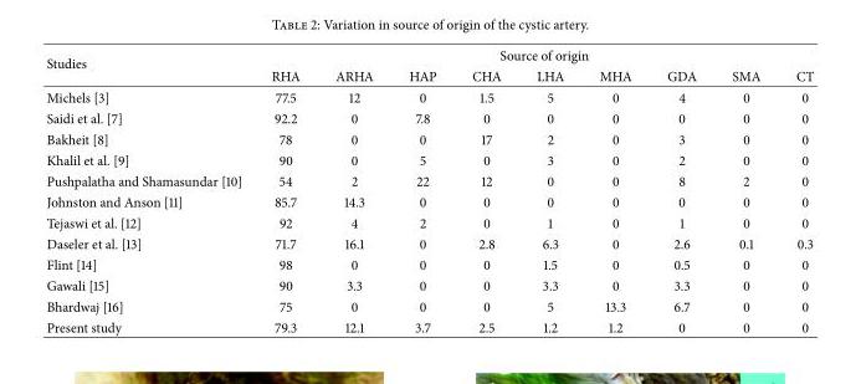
<table><thead><tr><td rowspan="2">Studies</td><td colspan="9">Source of origin</td></tr><tr><td>RHA</td><td>ARHA</td><td>HAP</td><td>CHA</td><td>LHA</td><td>MHA</td><td>GDA</td><td>SMA</td><td>CT</td></tr></thead><tbody><tr><td>Michels [3]</td><td>77.5</td><td>12</td><td>0</td><td>1.5</td><td>5</td><td>0</td><td>4</td><td>0</td><td>0</td></tr><tr><td>Saidi et al. [7]</td><td>92.2</td><td>0</td><td>7.8</td><td>0</td><td>0</td><td>0</td><td>0</td><td>0</td><td>0</td></tr><tr><td>Bakheit [8]</td><td>78</td><td>0</td><td>0</td><td>17</td><td>2</td><td>0</td><td>3</td><td>0</td><td>0</td></tr><tr><td>Khalil et al. [9]</td><td>90</td><td>0</td><td>5</td><td>0</td><td>3</td><td>0</td><td>2</td><td>0</td><td>0</td></tr><tr><td>Pushpalatha and Shamasundar [10]</td><td>54</td><td>2</td><td>22</td><td>12</td><td>0</td><td>0</td><td>8</td><td>2</td><td>0</td></tr><tr><td>Johnston and Anson [11]</td><td>85.7</td><td>14.3</td><td>0</td><td>0</td><td>0</td><td>0</td><td>0</td><td>0</td><td>0</td></tr><tr><td>Tejaswi et al. [12]</td><td>92</td><td>4</td><td>2</td><td>0</td><td>1</td><td>0</td><td>1</td><td>0</td><td>0</td></tr><tr><td>Daseler et al. [13]</td><td>71.7</td><td>16.1</td><td>0</td><td>2.8</td><td>6.3</td><td>0</td><td>2.6</td><td>0.1</td><td>0.3</td></tr><tr><td>Flint [14]</td><td>98</td><td>0</td><td>0</td><td>0</td><td>1.5</td><td>0</td><td>0.5</td><td>0</td><td>0</td></tr><tr><td>Gawali [15]</td><td>90</td><td>3.3</td><td>0</td><td>0</td><td>3.3</td><td>0</td><td>3.3</td><td>0</td><td>0</td></tr><tr><td>Bhardwaj [16]</td><td>75</td><td>0</td><td>0</td><td>0</td><td>5</td><td>13.3</td><td>6.7</td><td>0</td><td>0</td></tr><tr><td>Present study</td><td>79.3</td><td>12.1</td><td>3.7</td><td>2.5</td><td>1.2</td><td>1.2</td><td>0</td><td>0</td><td>0</td></tr></tbody></table>